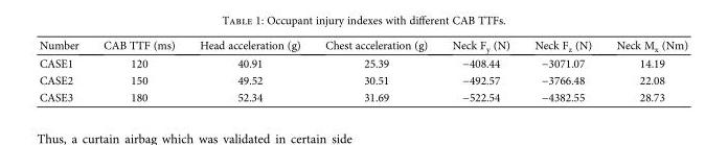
<table><thead><tr><td>Number</td><td>CAB TTF (ms)</td><td>Head acceleration (g)</td><td>Chest acceleration (g)</td><td>Neck F<sub>y</sub> (N)</td><td>Neck F<sub>z</sub> (N)</td><td>Neck M<sub>x</sub> (Nm)</td></tr></thead><tbody><tr><td>CASE1</td><td>120</td><td>40.91</td><td>25.39</td><td>−408.44</td><td>−3071.07</td><td>14.19</td></tr><tr><td>CASE2</td><td>150</td><td>49.52</td><td>30.51</td><td>−492.57</td><td>−3766.48</td><td>22.08</td></tr><tr><td>CASE3</td><td>180</td><td>52.34</td><td>31.69</td><td>−522.54</td><td>−4382.55</td><td>28.73</td></tr></tbody></table>